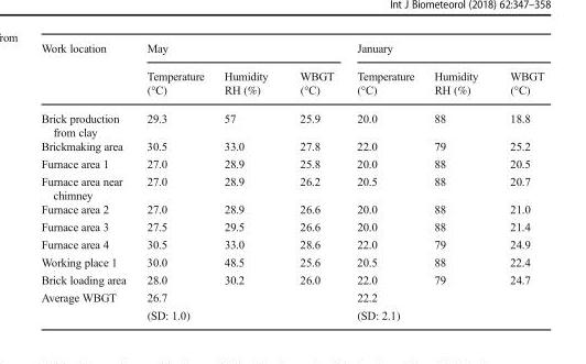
<table><thead><tr><td rowspan="2">Work location</td><td colspan="3">May</td><td colspan="3">January</td></tr><tr><td>Temperature (°C)</td><td>Humidity RH (%)</td><td>WBGT (°C)</td><td>Temperature (°C)</td><td>Humidity RH (%)</td><td>WBGT (°C)</td></tr></thead><tbody><tr><td>Brick production from clay</td><td>29.3</td><td>57</td><td>25.9</td><td>20.0</td><td>88</td><td>18.8</td></tr><tr><td>Brickmaking area</td><td>30.5</td><td>33.0</td><td>27.8</td><td>22.0</td><td>79</td><td>25.2</td></tr><tr><td>Furnace area 1</td><td>27.0</td><td>28.9</td><td>25.8</td><td>20.0</td><td>88</td><td>20.5</td></tr><tr><td>Furnace area near chimney</td><td>27.0</td><td>28.9</td><td>26.2</td><td>20.5</td><td>88</td><td>20.7</td></tr><tr><td>Furnace area 2</td><td>27.0</td><td>28.9</td><td>26.6</td><td>20.0</td><td>88</td><td>21.0</td></tr><tr><td>Furnace area 3</td><td>27.5</td><td>29.5</td><td>26.6</td><td>20.0</td><td>88</td><td>21.4</td></tr><tr><td>Furnace area 4</td><td>30.5</td><td>33.0</td><td>28.6</td><td>22.0</td><td>79</td><td>24.9</td></tr><tr><td>Working place 1</td><td>30.0</td><td>48.5</td><td>25.6</td><td>20.5</td><td>88</td><td>22.4</td></tr><tr><td>Brick loading area</td><td>28.0</td><td>30.2</td><td>26.0</td><td>22.0</td><td>79</td><td>24.7</td></tr><tr><td>Average WBGT</td><td colspan="3">26.7 (SD: 1.0)</td><td colspan="3">22.2 (SD: 2.1)</td></tr></tbody></table>